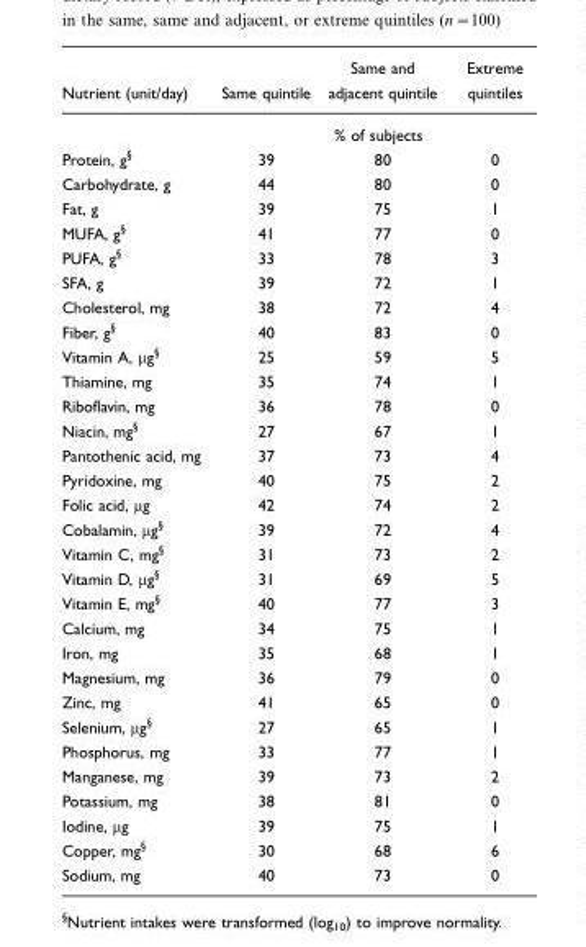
<table><thead><tr><td>Nutrient (unit/day)</td><td>Same quintile</td><td>Same and adjacent quintile</td><td>Extreme quintiles</td></tr></thead><tbody><tr><td></td><td colspan="3">% of subjects</td></tr><tr><td>Protein, g§</td><td>39</td><td>80</td><td>0</td></tr><tr><td>Carbohydrate, g</td><td>44</td><td>80</td><td>0</td></tr><tr><td>Fat, g</td><td>39</td><td>75</td><td>1</td></tr><tr><td>MUFA, g§</td><td>41</td><td>77</td><td>0</td></tr><tr><td>PUFA, g§</td><td>33</td><td>78</td><td>3</td></tr><tr><td>SFA, g</td><td>39</td><td>72</td><td>1</td></tr><tr><td>Cholesterol, mg</td><td>38</td><td>72</td><td>4</td></tr><tr><td>Fiber, g§</td><td>40</td><td>83</td><td>0</td></tr><tr><td>Vitamin A, µg§</td><td>25</td><td>59</td><td>5</td></tr><tr><td>Thiamine, mg</td><td>35</td><td>74</td><td>1</td></tr><tr><td>Riboflavin, mg</td><td>36</td><td>78</td><td>0</td></tr><tr><td>Niacin, mg§</td><td>27</td><td>67</td><td>1</td></tr><tr><td>Pantothenic acid, mg</td><td>37</td><td>73</td><td>4</td></tr><tr><td>Pyridoxine, mg</td><td>40</td><td>75</td><td>2</td></tr><tr><td>Folic acid, µg</td><td>42</td><td>74</td><td>2</td></tr><tr><td>Cobalamin, µg§</td><td>39</td><td>72</td><td>4</td></tr><tr><td>Vitamin C, mg§</td><td>31</td><td>73</td><td>2</td></tr><tr><td>Vitamin D, µg§</td><td>31</td><td>69</td><td>5</td></tr><tr><td>Vitamin E, mg§</td><td>40</td><td>77</td><td>3</td></tr><tr><td>Calcium, mg</td><td>34</td><td>75</td><td>1</td></tr><tr><td>Iron, mg</td><td>35</td><td>68</td><td>1</td></tr><tr><td>Magnesium, mg</td><td>36</td><td>79</td><td>0</td></tr><tr><td>Zinc, mg</td><td>41</td><td>65</td><td>0</td></tr><tr><td>Selenium, µg§</td><td>27</td><td>65</td><td>1</td></tr><tr><td>Phosphorus, mg</td><td>33</td><td>77</td><td>1</td></tr><tr><td>Manganese, mg</td><td>39</td><td>73</td><td>2</td></tr><tr><td>Potassium, mg</td><td>38</td><td>81</td><td>0</td></tr><tr><td>Iodine, µg</td><td>39</td><td>75</td><td>1</td></tr><tr><td>Copper, mg§</td><td>30</td><td>68</td><td>6</td></tr><tr><td>Sodium, mg</td><td>40</td><td>73</td><td>0</td></tr></tbody></table>